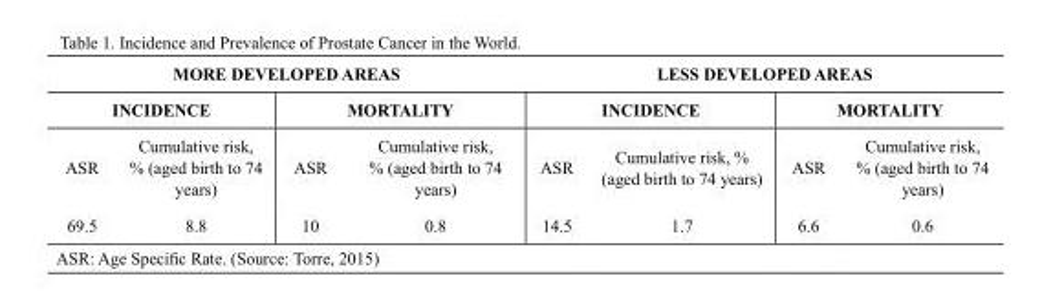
<table><thead><tr><td colspan="4">MORE DEVELOPED AREAS</td><td colspan="4">LESS DEVELOPED AREAS</td></tr><tr><td colspan="2">INCIDENCE</td><td colspan="2">MORTALITY</td><td colspan="2">INCIDENCE</td><td colspan="2">MORTALITY</td></tr><tr><td>ASR</td><td>Cumulative risk, % (aged birth to 74 years)</td><td>ASR</td><td>Cumulative risk, % (aged birth to 74 years)</td><td>ASR</td><td>Cumulative risk, % (aged birth to 74 years)</td><td>ASR</td><td>Cumulative risk, % (aged birth to 74 years)</td></tr></thead><tbody><tr><td>69.5</td><td>8.8</td><td>10</td><td>0.8</td><td>14.5</td><td>1.7</td><td>6.6</td><td>0.6</td></tr></tbody></table>